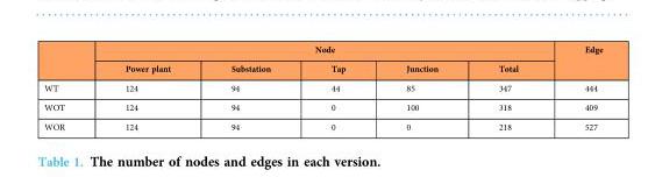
<table><thead><tr><td rowspan="2"></td><td colspan="5">Node</td><td rowspan="2">Edge</td></tr><tr><td>Power plant</td><td>Substation</td><td>Tap</td><td>Junction</td><td>Total</td></tr></thead><tbody><tr><td>WT</td><td>124</td><td>94</td><td>44</td><td>85</td><td>347</td><td>444</td></tr><tr><td>WOT</td><td>124</td><td>94</td><td>0</td><td>100</td><td>318</td><td>409</td></tr><tr><td>WOR</td><td>124</td><td>94</td><td>0</td><td>0</td><td>218</td><td>527</td></tr></tbody></table>